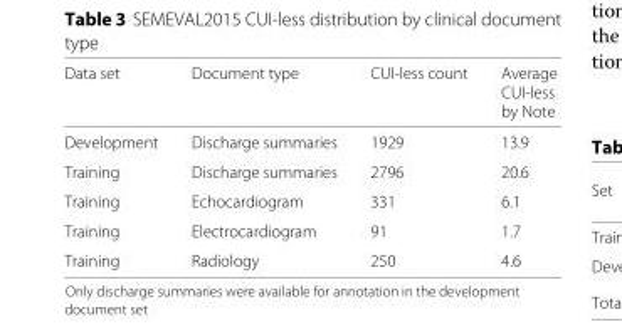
<table><thead><tr><td>Data set</td><td>Document type</td><td>CUI-less count</td><td>Average CUI-less by Note</td></tr></thead><tbody><tr><td>Development</td><td>Discharge summaries</td><td>1929</td><td>13.9</td></tr><tr><td>Training</td><td>Discharge summaries</td><td>2796</td><td>20.6</td></tr><tr><td>Training</td><td>Echocardiogram</td><td>331</td><td>6.1</td></tr><tr><td>Training</td><td>Electrocardiogram</td><td>91</td><td>1.7</td></tr><tr><td>Training</td><td>Radiology</td><td>250</td><td>4.6</td></tr></tbody></table>